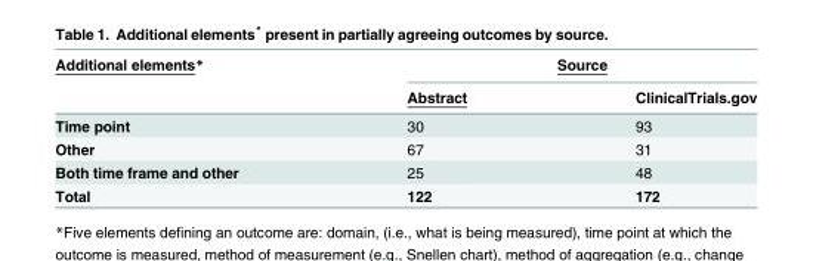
<table><thead><tr><td rowspan="2">Additional elements*</td><td colspan="2">Source</td></tr><tr><td>Abstract</td><td>ClinicalTrials.gov</td></tr></thead><tbody><tr><td>Time point</td><td>30</td><td>93</td></tr><tr><td>Other</td><td>67</td><td>31</td></tr><tr><td>Both time frame and other</td><td>25</td><td>48</td></tr><tr><td>Total</td><td>122</td><td>172</td></tr></tbody></table>